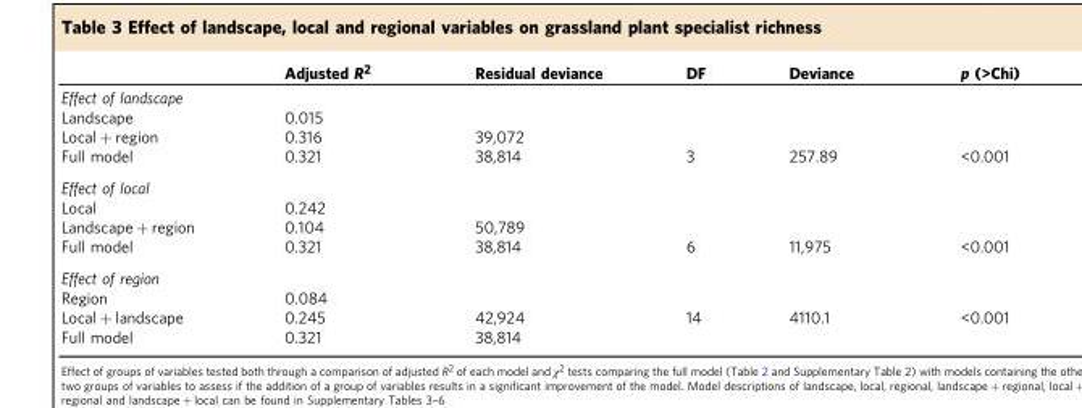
<table><thead><tr><td></td><td>Adjusted R<sup>2</sup></td><td>Residual deviance</td><td>DF</td><td>Deviance</td><td>p (&gt;Chi)</td></tr></thead><tbody><tr><td colspan="6">Effect of landscape</td></tr><tr><td>Landscape</td><td colspan="5">0.015</td></tr><tr><td>Local + region</td><td>0.316</td><td colspan="4">39,072</td></tr><tr><td>Full model</td><td>0.321</td><td>38,814</td><td>3</td><td>257.89</td><td>&lt;0.001</td></tr><tr><td colspan="6">Effect of local</td></tr><tr><td>Local</td><td colspan="5">0.242</td></tr><tr><td>Landscape + region</td><td>0.104</td><td colspan="4">50,789</td></tr><tr><td>Full model</td><td>0.321</td><td>38,814</td><td>6</td><td>11,975</td><td>&lt;0.001</td></tr><tr><td colspan="6">Effect of region</td></tr><tr><td>Region</td><td colspan="5">0.084</td></tr><tr><td>Local + landscape</td><td>0.245</td><td>42,924</td><td>14</td><td>4110.1</td><td>&lt;0.001</td></tr><tr><td>Full model</td><td>0.321</td><td colspan="4">38,814</td></tr></tbody></table>